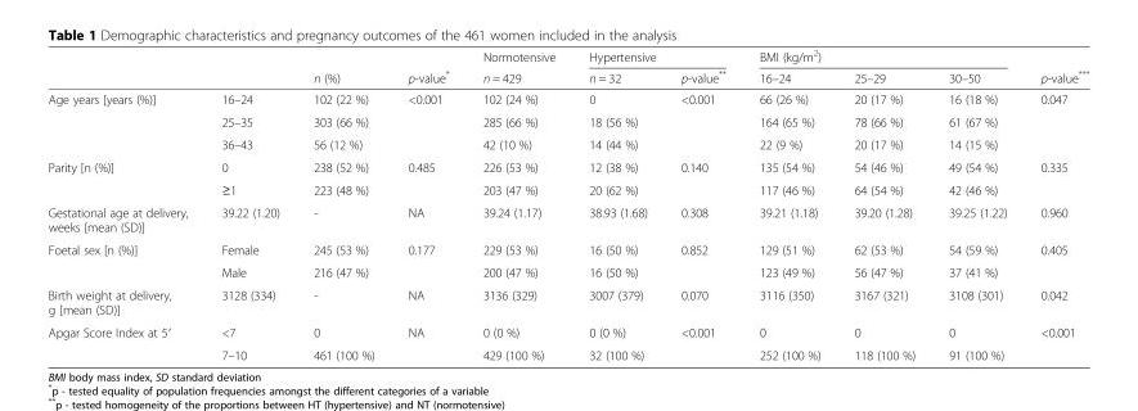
<table><thead><tr><td rowspan="2"></td><td rowspan="2"></td><td rowspan="2">n (%)</td><td rowspan="2">p-value*</td><td rowspan="2">Normotensive n = 429</td><td colspan="2">Hypertensive</td><td colspan="3">BMI (kg/m<sup>2</sup>)</td><td rowspan="2">p-value***</td></tr><tr><td>n = 32</td><td>p-value**</td><td>16–24</td><td>25–29</td><td>30–50</td></tr></thead><tbody><tr><td rowspan="3">Age years [years (%)]</td><td>16–24</td><td>102 (22 %)</td><td rowspan="3">&lt;0.001</td><td>102 (24 %)</td><td>0</td><td rowspan="3">&lt;0.001</td><td>66 (26 %)</td><td>20 (17 %)</td><td>16 (18 %)</td><td rowspan="3">0.047</td></tr><tr><td>25–35</td><td>303 (66 %)</td><td>285 (66 %)</td><td>18 (56 %)</td><td>164 (65 %)</td><td>78 (66 %)</td><td>61 (67 %)</td></tr><tr><td>36–43</td><td>56 (12 %)</td><td>42 (10 %)</td><td>14 (44 %)</td><td>22 (9 %)</td><td>20 (17 %)</td><td>14 (15 %)</td></tr><tr><td rowspan="2">Parity [n (%)]</td><td>0</td><td>238 (52 %)</td><td rowspan="2">0.485</td><td>226 (53 %)</td><td>12 (38 %)</td><td rowspan="2">0.140</td><td>135 (54 %)</td><td>54 (46 %)</td><td>49 (54 %)</td><td rowspan="2">0.335</td></tr><tr><td>≥1</td><td>223 (48 %)</td><td>203 (47 %)</td><td>20 (62 %)</td><td>117 (46 %)</td><td>64 (54 %)</td><td>42 (46 %)</td></tr><tr><td>Gestational age at delivery, weeks [mean (SD)]</td><td>39.22 (1.20)</td><td>-</td><td>NA</td><td>39.24 (1.17)</td><td>38.93 (1.68)</td><td>0.308</td><td>39.21 (1.18)</td><td>39.20 (1.28)</td><td>39.25 (1.22)</td><td>0.960</td></tr><tr><td rowspan="2">Foetal sex [n (%)]</td><td>Female</td><td>245 (53 %)</td><td rowspan="2">0.177</td><td>229 (53 %)</td><td>16 (50 %)</td><td rowspan="2">0.852</td><td>129 (51 %)</td><td>62 (53 %)</td><td>54 (59 %)</td><td rowspan="2">0.405</td></tr><tr><td>Male</td><td>216 (47 %)</td><td>200 (47 %)</td><td>16 (50 %)</td><td>123 (49 %)</td><td>56 (47 %)</td><td>37 (41 %)</td></tr><tr><td>Birth weight at delivery, g [mean (SD)]</td><td>3128 (334)</td><td>-</td><td>NA</td><td>3136 (329)</td><td>3007 (379)</td><td>0.070</td><td>3116 (350)</td><td>3167 (321)</td><td>3108 (301)</td><td>0.042</td></tr><tr><td rowspan="2">Apgar Score Index at 5′</td><td>&lt;7</td><td>0</td><td rowspan="2">NA</td><td>0 (0 %)</td><td>0 (0 %)</td><td rowspan="2">&lt;0.001</td><td>0</td><td>0</td><td>0</td><td rowspan="2">&lt;0.001</td></tr><tr><td>7–10</td><td>461 (100 %)</td><td>429 (100 %)</td><td>32 (100 %)</td><td>252 (100 %)</td><td>118 (100 %)</td><td>91 (100 %)</td></tr></tbody></table>